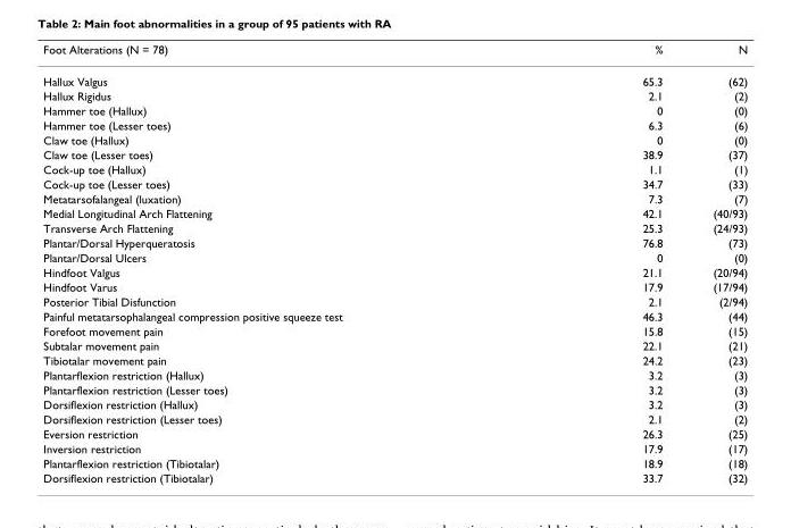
<table><thead><tr><td>Foot Alterations (N = 78)</td><td>%</td><td>N</td></tr></thead><tbody><tr><td>Hallux Valgus</td><td>65.3</td><td>(62)</td></tr><tr><td>Hallux Rigidus</td><td>2.1</td><td>(2)</td></tr><tr><td>Hammer toe (Hallux)</td><td>0</td><td>(0)</td></tr><tr><td>Hammer toe (Lesser toes)</td><td>6.3</td><td>(6)</td></tr><tr><td>Claw toe (Hallux)</td><td>0</td><td>(0)</td></tr><tr><td>Claw toe (Lesser toes)</td><td>38.9</td><td>(37)</td></tr><tr><td>Cock-up toe (Hallux)</td><td>1.1</td><td>(1)</td></tr><tr><td>Cock-up toe (Lesser toes)</td><td>34.7</td><td>(33)</td></tr><tr><td>Metatarsofalangeal (luxation)</td><td>7.3</td><td>(7)</td></tr><tr><td>Medial Longitudinal Arch Flattening</td><td>42.1</td><td>(40/93)</td></tr><tr><td>Transverse Arch Flattening</td><td>25.3</td><td>(24/93)</td></tr><tr><td>Plantar/Dorsal Hyperqueratosis</td><td>76.8</td><td>(73)</td></tr><tr><td>Plantar/Dorsal Ulcers</td><td>0</td><td>(0)</td></tr><tr><td>Hindfoot Valgus</td><td>21.1</td><td>(20/94)</td></tr><tr><td>Hindfoot Varus</td><td>17.9</td><td>(17/94)</td></tr><tr><td>Posterior Tibial Disfunction</td><td>2.1</td><td>(2/94)</td></tr><tr><td>Painful metatarsophalangeal compression positive squeeze test</td><td>46.3</td><td>(44)</td></tr><tr><td>Forefoot movement pain</td><td>15.8</td><td>(15)</td></tr><tr><td>Subtalar movement pain</td><td>22.1</td><td>(21)</td></tr><tr><td>Tibiotalar movement pain</td><td>24.2</td><td>(23)</td></tr><tr><td>Plantarflexion restriction (Hallux)</td><td>3.2</td><td>(3)</td></tr><tr><td>Plantarflexion restriction (Lesser toes)</td><td>3.2</td><td>(3)</td></tr><tr><td>Dorsiflexion restriction (Hallux)</td><td>3.2</td><td>(3)</td></tr><tr><td>Dorsiflexion restriction (Lesser toes)</td><td>2.1</td><td>(2)</td></tr><tr><td>Eversion restriction</td><td>26.3</td><td>(25)</td></tr><tr><td>Inversion restriction</td><td>17.9</td><td>(17)</td></tr><tr><td>Plantarflexion restriction (Tibiotalar)</td><td>18.9</td><td>(18)</td></tr><tr><td>Dorsiflexion restriction (Tibiotalar)</td><td>33.7</td><td>(32)</td></tr></tbody></table>